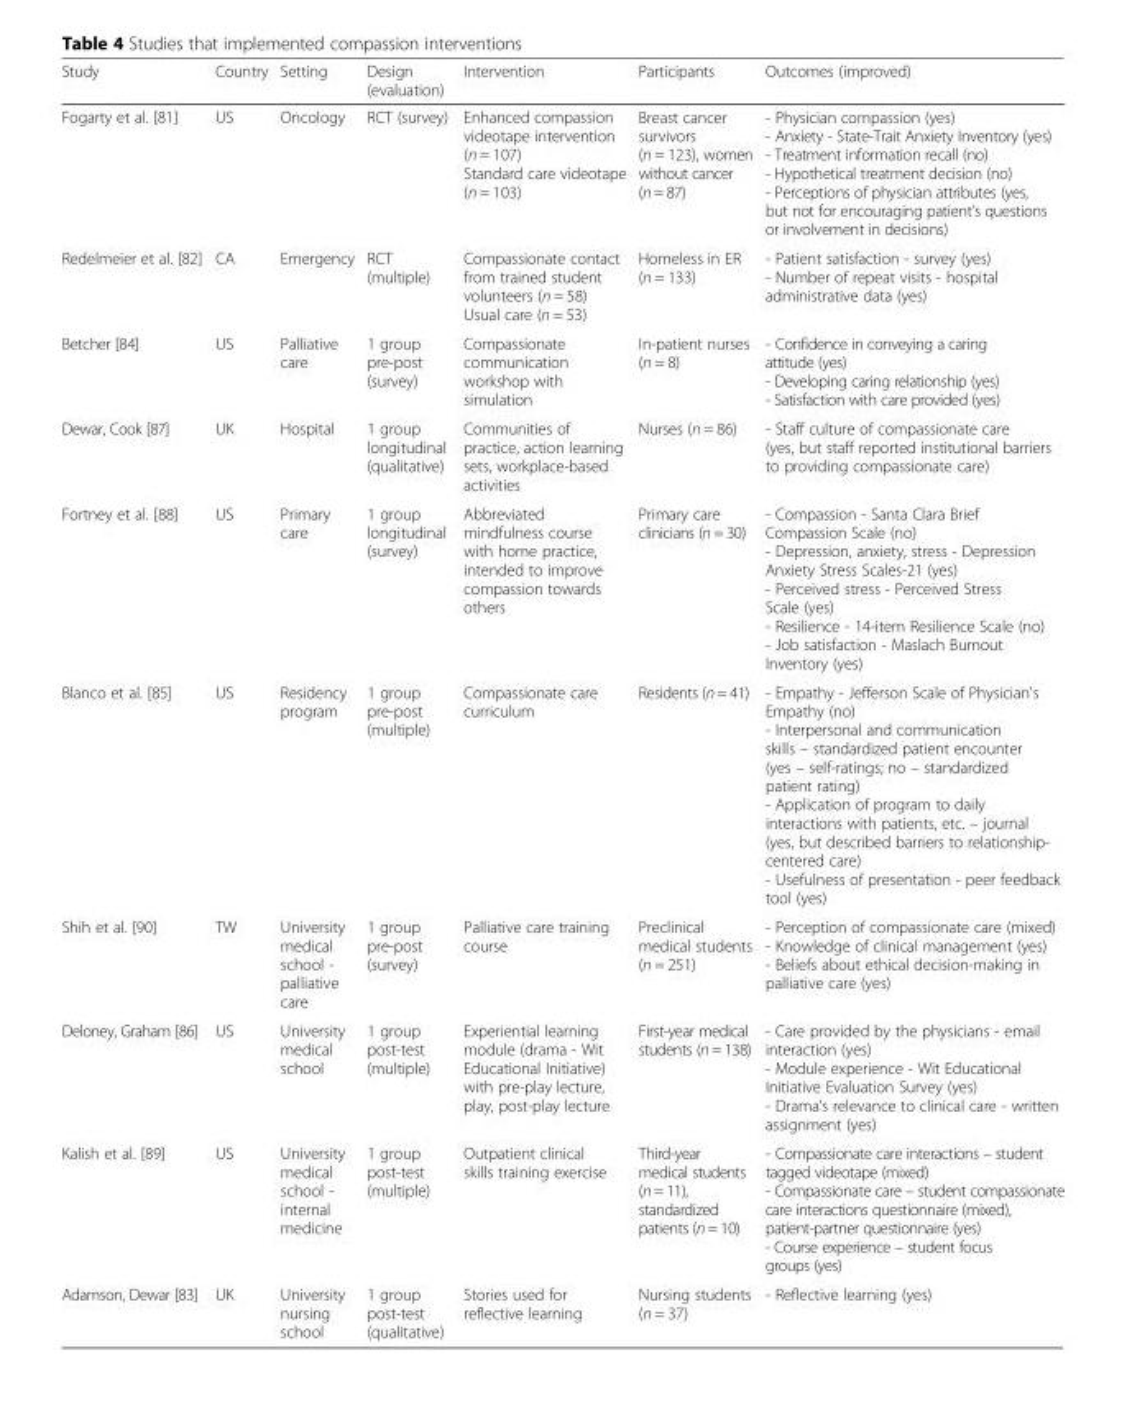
<table><thead><tr><td>Study</td><td>Country</td><td>Setting</td><td>Design (evaluation)</td><td>Intervention</td><td>Participants</td><td>Outcomes (improved)</td></tr></thead><tbody><tr><td>Fogarty et al. [81]</td><td>US</td><td>Oncology</td><td>RCT (survey)</td><td>Enhanced compassion videotape intervention (n = 107) Standard care videotape (n = 103)</td><td>Breast cancer survivors (n = 123), women without cancer (n = 87)</td><td>- Physician compassion (yes) - Anxiety - State-Trait Anxiety Inventory (yes) - Treatment information recall (no) - Hypothetical treatment decision (no) - Perceptions of physician attributes (yes, but not for encouraging patient’s questions or involvement in decisions)</td></tr><tr><td>Redelmeier et al. [82]</td><td>CA</td><td>Emergency</td><td>RCT (multiple)</td><td>Compassionate contact from trained student volunteers (n = 58) Usual care (n = 53)</td><td>Homeless in ER (n = 133)</td><td>- Patient satisfaction - survey (yes) - Number of repeat visits - hospital administrative data (yes)</td></tr><tr><td>Betcher [84]</td><td>US</td><td>Palliative care</td><td>1 group pre-post (survey)</td><td>Compassionate communication workshop with simulation</td><td>In-patient nurses (n = 8)</td><td>- Confidence in conveying a caring attitude (yes) - Developing caring relationship (yes) - Satisfaction with care provided (yes)</td></tr><tr><td>Dewar, Cook [87]</td><td>UK</td><td>Hospital</td><td>1 group longitudinal (qualitative)</td><td>Communities of practice, action learning sets, workplace-based activities</td><td>Nurses (n = 86)</td><td>- Staff culture of compassionate care (yes, but staff reported institutional barriers to providing compassionate care)</td></tr><tr><td>Fortney et al. [88]</td><td>US</td><td>Primary care</td><td>1 group longitudinal (survey)</td><td>Abbreviated mindfulness course with home practice, intended to improve compassion towards others</td><td>Primary care clinicians (n = 30)</td><td>- Compassion - Santa Clara Brief Compassion Scale (no) - Depression, anxiety, stress - Depression Anxiety Stress Scales-21 (yes) - Perceived stress - Perceived Stress Scale (yes) - Resilience - 14-item Resilience Scale (no) - Job satisfaction - Maslach Burnout Inventory (yes)</td></tr><tr><td>Blanco et al. [85]</td><td>US</td><td>Residency program</td><td>1 group pre-post (multiple)</td><td>Compassionate care curriculum</td><td>Residents (n = 41)</td><td>- Empathy - Jefferson Scale of Physician&#x27;s Empathy (no) - Interpersonal and communication skills – standardized patient encounter (yes – self-ratings; no – standardized patient rating) - Application of program to daily interactions with patients, etc. – journal (yes, but described barriers to relationship- centered care) - Usefulness of presentation - peer feedback tool (yes)</td></tr><tr><td>Shih et al. [90]</td><td>TW</td><td>University medical school - palliative care</td><td>1 group pre-post (survey)</td><td>Palliative care training course</td><td>Preclinical medical students (n = 251)</td><td>- Perception of compassionate care (mixed) - Knowledge of clinical management (yes) - Beliefs about ethical decision-making in palliative care (yes)</td></tr><tr><td>Deloney, Graham [86]</td><td>US</td><td>University medical school</td><td>1 group post-test (multiple)</td><td>Experiential learning module (drama - Wit Educational Initiative) with pre-play lecture, play, post-play lecture</td><td>First-year medical students (n = 138)</td><td>- Care provided by the physicians - email interaction (yes) - Module experience - Wit Educational Initiative Evaluation Survey (yes) - Drama’s relevance to clinical care - written assignment (yes)</td></tr><tr><td>Kalish et al. [89]</td><td>US</td><td>University medical school - internal medicine</td><td>1 group post-test (multiple)</td><td>Outpatient clinical skills training exercise</td><td>Third-year medical students (n = 11), standardized patients (n = 10)</td><td>- Compassionate care interactions – student tagged videotape (mixed) - Compassionate care – student compassionate care interactions questionnaire (mixed), patient-partner questionnaire (yes) - Course experience – student focus groups (yes)</td></tr><tr><td>Adamson, Dewar [83]</td><td>UK</td><td>University nursing school</td><td>1 group post-test (qualitative)</td><td>Stories used for reflective learning</td><td>Nursing students (n = 37)</td><td>- Reflective learning (yes)</td></tr></tbody></table>